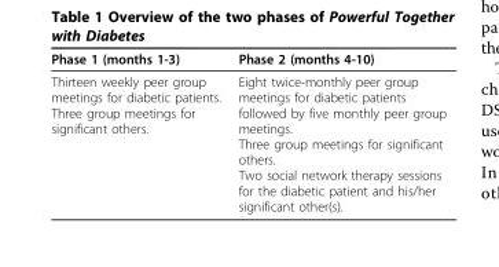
<table><thead><tr><td>Phase 1 (months 1-3)</td><td>Phase 2 (months 4-10)</td></tr></thead><tbody><tr><td>Thirteen weekly peer group meetings for diabetic patients. Three group meetings for significant others.</td><td>Eight twice-monthly peer group meetings for diabetic patients followed by five monthly peer group meetings. Three group meetings for significant others. Two social network therapy sessions for the diabetic patient and his/her significant other(s).</td></tr></tbody></table>